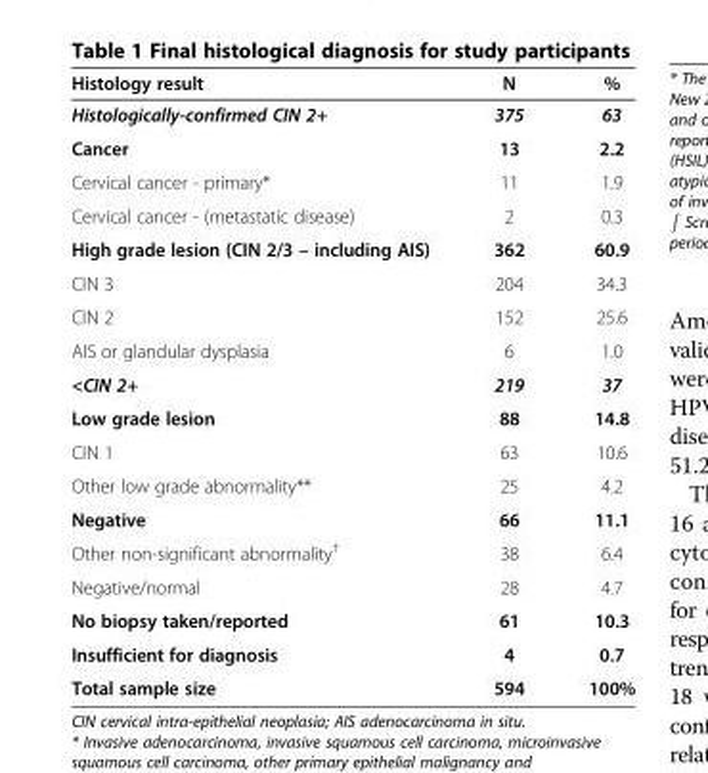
<table><thead><tr><td>Histology result</td><td>N</td><td>%</td></tr></thead><tbody><tr><td>Histologically-confirmed CIN 2+</td><td>375</td><td>63</td></tr><tr><td>Cancer</td><td>13</td><td>2.2</td></tr><tr><td>Cervical cancer - primary*</td><td>11</td><td>1.9</td></tr><tr><td>Cervical cancer - (metastatic disease)</td><td>2</td><td>0.3</td></tr><tr><td>High grade lesion (CIN 2/3 – including AIS)</td><td>362</td><td>60.9</td></tr><tr><td>CIN 3</td><td>204</td><td>34.3</td></tr><tr><td>CIN 2</td><td>152</td><td>25.6</td></tr><tr><td>AIS or glandular dysplasia</td><td>6</td><td>1.0</td></tr><tr><td>&lt;CIN 2+</td><td>219</td><td>37</td></tr><tr><td>Low grade lesion</td><td>88</td><td>14.8</td></tr><tr><td>CIN 1</td><td>63</td><td>10.6</td></tr><tr><td>Other low grade abnormality**</td><td>25</td><td>4.2</td></tr><tr><td>Negative</td><td>66</td><td>11.1</td></tr><tr><td>Other non-significant abnormality<sup>†</sup></td><td>38</td><td>6.4</td></tr><tr><td>Negative/normal</td><td>28</td><td>4.7</td></tr><tr><td>No biopsy taken/reported</td><td>61</td><td>10.3</td></tr><tr><td>Insufficient for diagnosis</td><td>4</td><td>0.7</td></tr><tr><td>Total sample size</td><td>594</td><td>100%</td></tr></tbody></table>